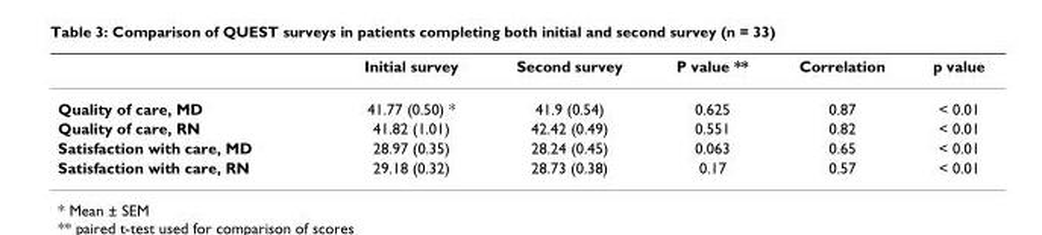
<table><thead><tr><td></td><td>Initial survey</td><td>Second survey</td><td>P value **</td><td>Correlation</td><td>p value</td></tr></thead><tbody><tr><td>Quality of care, MD</td><td>41.77 (0.50) *</td><td>41.9 (0.54)</td><td>0.625</td><td>0.87</td><td>&lt; 0.01</td></tr><tr><td>Quality of care, RN</td><td>41.82 (1.01)</td><td>42.42 (0.49)</td><td>0.551</td><td>0.82</td><td>&lt; 0.01</td></tr><tr><td>Satisfaction with care, MD</td><td>28.97 (0.35)</td><td>28.24 (0.45)</td><td>0.063</td><td>0.65</td><td>&lt; 0.01</td></tr><tr><td>Satisfaction with care, RN</td><td>29.18 (0.32)</td><td>28.73 (0.38)</td><td>0.17</td><td>0.57</td><td>&lt; 0.01</td></tr></tbody></table>